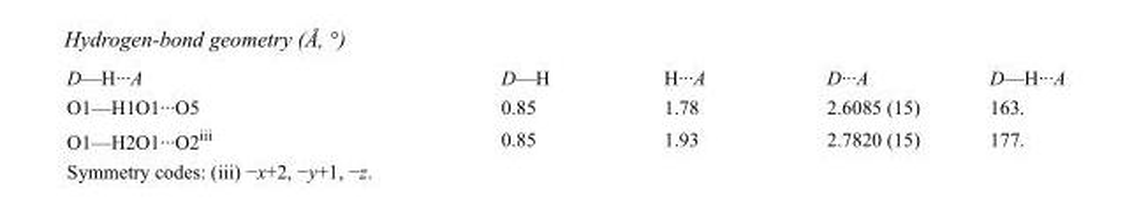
<table><tbody><tr><td>D—H···A</td><td>D—H</td><td>H···A</td><td>D···A</td><td>D—H···A</td></tr><tr><td>O1—H1O1···O5</td><td>0.85</td><td>1.78</td><td>2.6085 (15)</td><td>163.</td></tr><tr><td>O1—H2O1···O2<sup>iii</sup></td><td>0.85</td><td>1.93</td><td>2.7820 (15)</td><td>177.</td></tr></tbody></table>